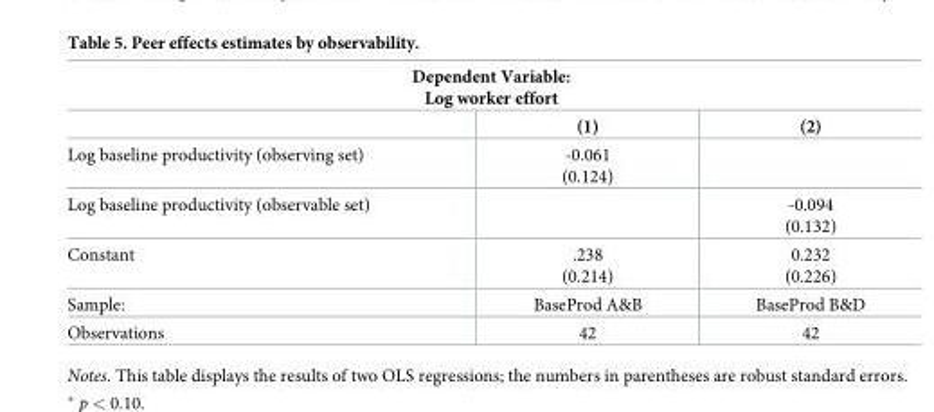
<table><thead><tr><td colspan="3">Dependent Variable: Log worker effort</td></tr><tr><td></td><td>(1)</td><td>(2)</td></tr></thead><tbody><tr><td>Log baseline productivity (observing set)</td><td>-0.061 (0.124)</td><td></td></tr><tr><td>Log baseline productivity (observable set)</td><td></td><td>-0.094 (0.132)</td></tr><tr><td>Constant</td><td>.238 (0.214)</td><td>0.232 (0.226)</td></tr><tr><td>Sample:</td><td>BaseProd A&amp;B</td><td>BaseProd B&amp;D</td></tr><tr><td>Observations</td><td>42</td><td>42</td></tr></tbody></table>